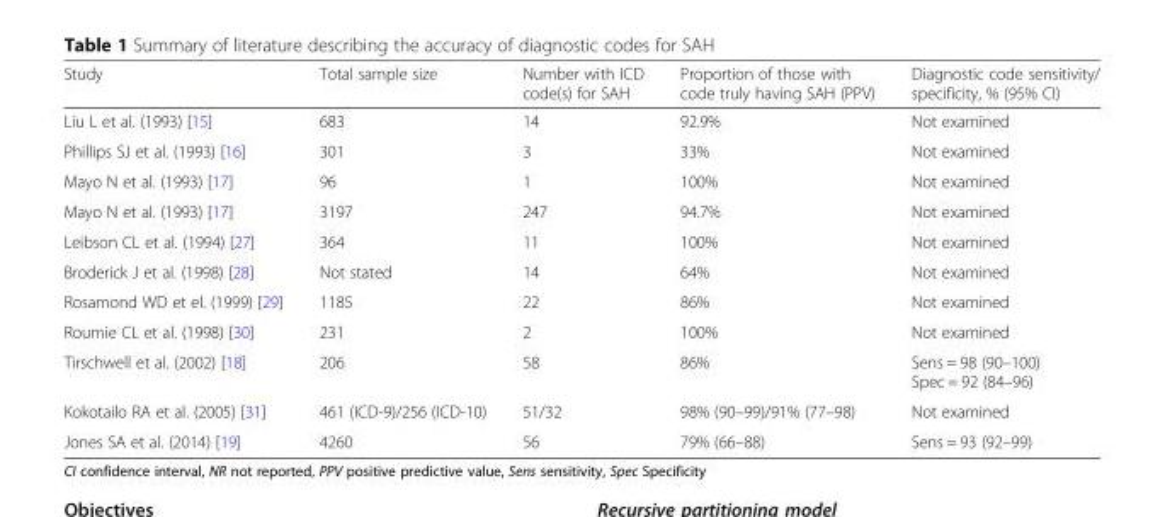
<table><thead><tr><td>Study</td><td>Total sample size</td><td>Number with ICD code(s) for SAH</td><td>Proportion of those with code truly having SAH (PPV)</td><td>Diagnostic code sensitivity/ specificity, % (95% CI)</td></tr></thead><tbody><tr><td>Liu L et al. (1993) [15]</td><td>683</td><td>14</td><td>92.9%</td><td>Not examined</td></tr><tr><td>Phillips SJ et al. (1993) [16]</td><td>301</td><td>3</td><td>33%</td><td>Not examined</td></tr><tr><td>Mayo N et al. (1993) [17]</td><td>96</td><td>1</td><td>100%</td><td>Not examined</td></tr><tr><td>Mayo N et al. (1993) [17]</td><td>3197</td><td>247</td><td>94.7%</td><td>Not examined</td></tr><tr><td>Leibson CL et al. (1994) [27]</td><td>364</td><td>11</td><td>100%</td><td>Not examined</td></tr><tr><td>Broderick J et al. (1998) [28]</td><td>Not stated</td><td>14</td><td>64%</td><td>Not examined</td></tr><tr><td>Rosamond WD et el. (1999) [29]</td><td>1185</td><td>22</td><td>86%</td><td>Not examined</td></tr><tr><td>Roumie CL et al. (1998) [30]</td><td>231</td><td>2</td><td>100%</td><td>Not examined</td></tr><tr><td>Tirschwell et al. (2002) [18]</td><td>206</td><td>58</td><td>86%</td><td>Sens = 98 (90–100) Spec = 92 (84–96)</td></tr><tr><td>Kokotailo RA et al. (2005) [31]</td><td>461 (ICD-9)/256 (ICD-10)</td><td>51/32</td><td>98% (90–99)/91% (77–98)</td><td>Not examined</td></tr><tr><td>Jones SA et al. (2014) [19]</td><td>4260</td><td>56</td><td>79% (66–88)</td><td>Sens = 93 (92–99)</td></tr></tbody></table>